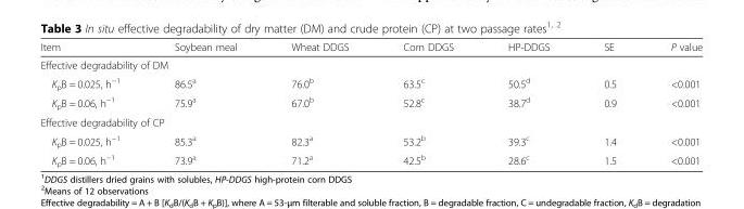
<table><thead><tr><td>Item</td><td>Soybean meal</td><td>Wheat DDGS</td><td>Corn DDGS</td><td>HP-DDGS</td><td>SE</td><td>P value</td></tr></thead><tbody><tr><td colspan="7">Effective degradability of DM</td></tr><tr><td>K<sub>p</sub>B = 0.025, h<sup>−1</sup></td><td>86.5<sup>a</sup></td><td>76.0<sup>b</sup></td><td>63.5<sup>c</sup></td><td>50.5<sup>d</sup></td><td>0.5</td><td>&lt;0.001</td></tr><tr><td>K<sub>p</sub>B = 0.06, h<sup>−1</sup></td><td>75.9<sup>a</sup></td><td>67.0<sup>b</sup></td><td>52.8<sup>c</sup></td><td>38.7<sup>d</sup></td><td>0.9</td><td>&lt;0.001</td></tr><tr><td colspan="7">Effective degradability of CP</td></tr><tr><td>K<sub>p</sub>B = 0.025, h<sup>−1</sup></td><td>85.3<sup>a</sup></td><td>82.3<sup>a</sup></td><td>53.2<sup>b</sup></td><td>39.3<sup>c</sup></td><td>1.4</td><td>&lt;0.001</td></tr><tr><td>K<sub>p</sub>B = 0.06, h<sup>−1</sup></td><td>73.9<sup>a</sup></td><td>71.2<sup>a</sup></td><td>42.5<sup>b</sup></td><td>28.6<sup>c</sup></td><td>1.5</td><td>&lt;0.001</td></tr></tbody></table>